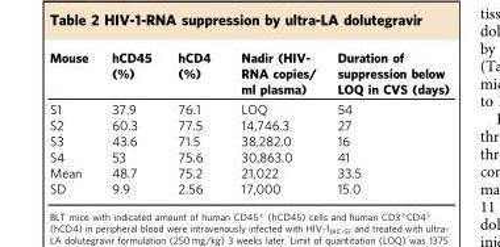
<table><thead><tr><td>Mouse</td><td>hCD45 (%)</td><td>hCD4 (%)</td><td>Nadir (HIV- RNA copies/ ml plasma)</td><td>Duration of suppression below LOQ in CVS (days)</td></tr></thead><tbody><tr><td>S1</td><td>37.9</td><td>76.1</td><td>LOQ</td><td>54</td></tr><tr><td>S2</td><td>60.3</td><td>77.5</td><td>14,746.3</td><td>27</td></tr><tr><td>S3</td><td>43.6</td><td>71.5</td><td>38,282.0</td><td>16</td></tr><tr><td>S4</td><td>53</td><td>75.6</td><td>30,863.0</td><td>41</td></tr><tr><td>Mean</td><td>48.7</td><td>75.2</td><td>21,022</td><td>33.5</td></tr><tr><td>SD</td><td>9.9</td><td>2.56</td><td>17,000</td><td>15.0</td></tr></tbody></table>